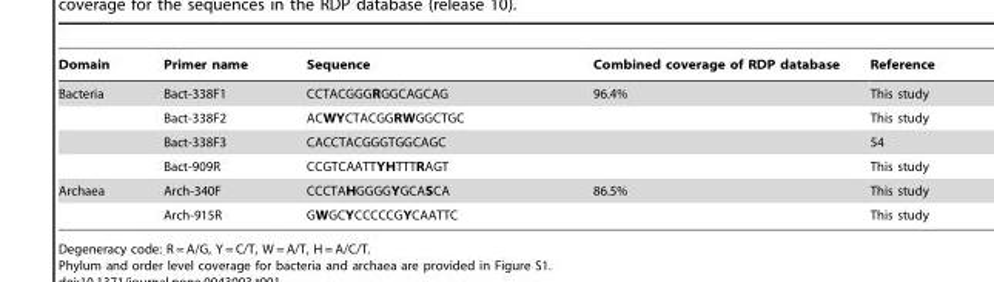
<table><thead><tr><td>Domain</td><td>Primer name</td><td>Sequence</td><td>Combined coverage of RDP database</td><td>Reference</td></tr></thead><tbody><tr><td rowspan="4">Bacteria</td><td>Bact-338F1</td><td>CCTACGGGRGGCAGCAG</td><td>96.4%</td><td>This study</td></tr><tr><td>Bact-338F2</td><td>ACWYCTACGGRWGGCTGC</td><td></td><td>This study</td></tr><tr><td>Bact-338F3</td><td>CACCTACGGGTGGCAGC</td><td></td><td>54</td></tr><tr><td>Bact-909R</td><td>CCGTCAATTYHTTTRAGT</td><td></td><td>This study</td></tr><tr><td rowspan="2">Archaea</td><td>Arch-340F</td><td>CCCTAHGGGGYGCASCA</td><td>86.5%</td><td>This study</td></tr><tr><td>Arch-915R</td><td>GWGCYCCCCCGYCAATTC</td><td></td><td>This study</td></tr></tbody></table>